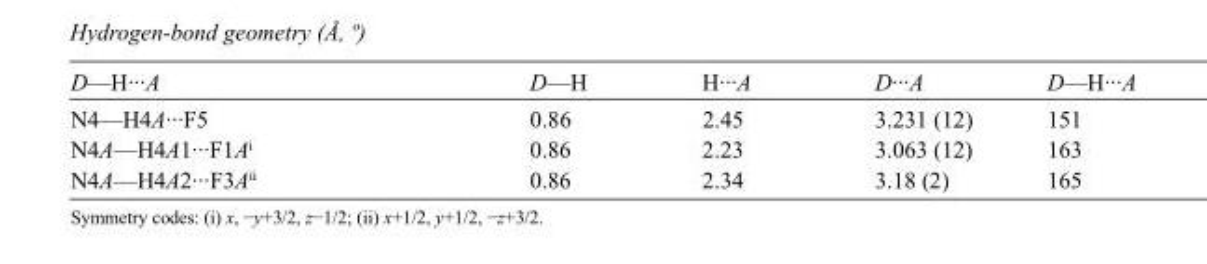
<table><tbody><tr><td>D—H···A</td><td>D—H</td><td>H···A</td><td>D···A</td><td>D—H···A</td></tr><tr><td>N4—H4A···F5</td><td>0.86</td><td>2.45</td><td>3.231 (12)</td><td>151</td></tr><tr><td>N4A—H4A1···F1A<sup>i</sup></td><td>0.86</td><td>2.23</td><td>3.063 (12)</td><td>163</td></tr><tr><td>N4A—H4A2···F3A<sup>ii</sup></td><td>0.86</td><td>2.34</td><td>3.18 (2)</td><td>165</td></tr></tbody></table>